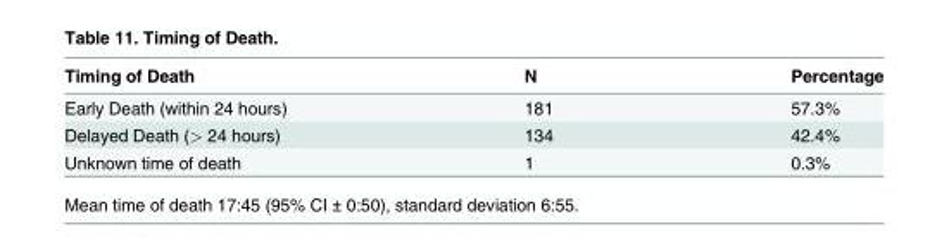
<table><thead><tr><td>Timing of Death</td><td>N</td><td>Percentage</td></tr></thead><tbody><tr><td>Early Death (within 24 hours)</td><td>181</td><td>57.3%</td></tr><tr><td>Delayed Death (&gt; 24 hours)</td><td>134</td><td>42.4%</td></tr><tr><td>Unknown time of death</td><td>1</td><td>0.3%</td></tr></tbody></table>